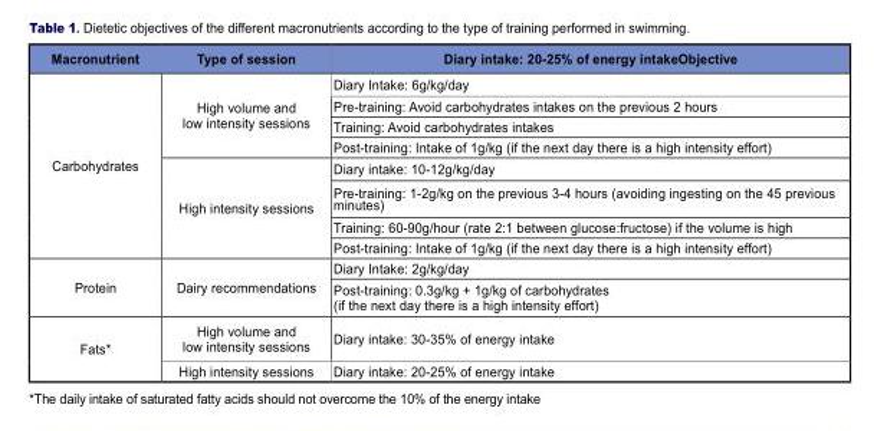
<table><thead><tr><td>Macronutrient</td><td>Type of session</td><td>Diary intake: 20-25% of energy intakeObjective</td></tr></thead><tbody><tr><td rowspan="8">Carbohydrates</td><td rowspan="4">High volume and low intensity sessions</td><td>Diary Intake: 6g/kg/day</td></tr><tr><td>Pre-training: Avoid carbohydrates intakes on the previous 2 hours</td></tr><tr><td>Training: Avoid carbohydrates intakes</td></tr><tr><td>Post-training: Intake of 1g/kg (if the next day there is a high intensity effort)</td></tr><tr><td rowspan="4">High intensity sessions</td><td>Diary intake: 10-12g/kg/day</td></tr><tr><td>Pre-training: 1-2g/kg on the previous 3-4 hours (avoiding ingesting on the 45 previous minutes)</td></tr><tr><td>Training: 60-90g/hour (rate 2:1 between glucose:fructose) if the volume is high</td></tr><tr><td>Post-training: Intake of 1g/kg (if the next day there is a high intensity effort)</td></tr><tr><td rowspan="2">Protein</td><td rowspan="2">Dairy recommendations</td><td>Diary Intake: 2g/kg/day</td></tr><tr><td>Post-training: 0.3g/kg + 1g/kg of carbohydrates (if the next day there is a high intensity effort)</td></tr><tr><td rowspan="2">Fats*</td><td>High volume and low intensity sessions</td><td>Diary intake: 30-35% of energy intake</td></tr><tr><td>High intensity sessions</td><td>Diary intake: 20-25% of energy intake</td></tr></tbody></table>